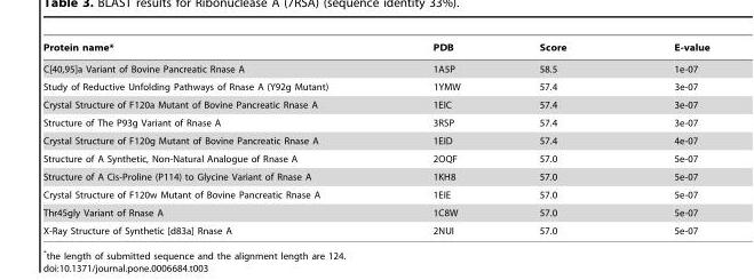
<table><thead><tr><td>Protein name*</td><td>PDB</td><td>Score</td><td>E-value</td></tr></thead><tbody><tr><td>C[40,95]a Variant of Bovine Pancreatic Rnase A</td><td>1A5P</td><td>58.5</td><td>1e-07</td></tr><tr><td>Study of Reductive Unfolding Pathways of Rnase A (Y92g Mutant)</td><td>1YMW</td><td>57.4</td><td>3e-07</td></tr><tr><td>Crystal Structure of F120a Mutant of Bovine Pancreatic Rnase A</td><td>1EIC</td><td>57.4</td><td>3e-07</td></tr><tr><td>Structure of The P93g Variant of Rnase A</td><td>3RSP</td><td>57.4</td><td>3e-07</td></tr><tr><td>Crystal Structure of F120g Mutant of Bovine Pancreatic Rnase A</td><td>1EID</td><td>57.4</td><td>4e-07</td></tr><tr><td>Structure of A Synthetic, Non-Natural Analogue of Rnase A</td><td>2OQF</td><td>57.0</td><td>5e-07</td></tr><tr><td>Structure of A Cis-Proline (P114) to Glycine Variant of Rnase A</td><td>1KH8</td><td>57.0</td><td>5e-07</td></tr><tr><td>Crystal Structure of F120w Mutant of Bovine Pancreatic Rnase A</td><td>1EIE</td><td>57.0</td><td>5e-07</td></tr><tr><td>Thr45gly Variant of Rnase A</td><td>1C8W</td><td>57.0</td><td>5e-07</td></tr><tr><td>X-Ray Structure of Synthetic [d83a] Rnase A</td><td>2NUI</td><td>57.0</td><td>5e-07</td></tr></tbody></table>